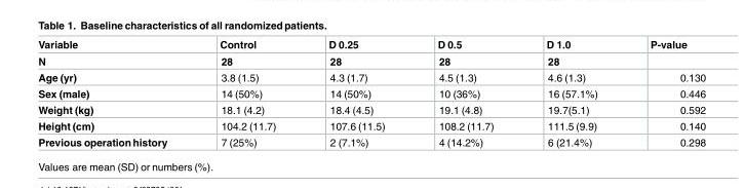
<table><thead><tr><td>Variable</td><td>Control</td><td>D 0.25</td><td>D 0.5</td><td>D 1.0</td><td>P-value</td></tr></thead><tbody><tr><td>N</td><td>28</td><td>28</td><td>28</td><td>28</td><td></td></tr><tr><td>Age (yr)</td><td>3.8 (1.5)</td><td>4.3 (1.7)</td><td>4.5 (1.3)</td><td>4.6 (1.3)</td><td>0.130</td></tr><tr><td>Sex (male)</td><td>14 (50%)</td><td>14 (50%)</td><td>10 (36%)</td><td>16 (57.1%)</td><td>0.446</td></tr><tr><td>Weight (kg)</td><td>18.1 (4.2)</td><td>18.4 (4.5)</td><td>19.1 (4.8)</td><td>19.7(5.1)</td><td>0.592</td></tr><tr><td>Height (cm)</td><td>104.2 (11.7)</td><td>107.6 (11.5)</td><td>108.2 (11.7)</td><td>111.5 (9.9)</td><td>0.140</td></tr><tr><td>Previous operation history</td><td>7 (25%)</td><td>2 (7.1%)</td><td>4 (14.2%)</td><td>6 (21.4%)</td><td>0.298</td></tr></tbody></table>